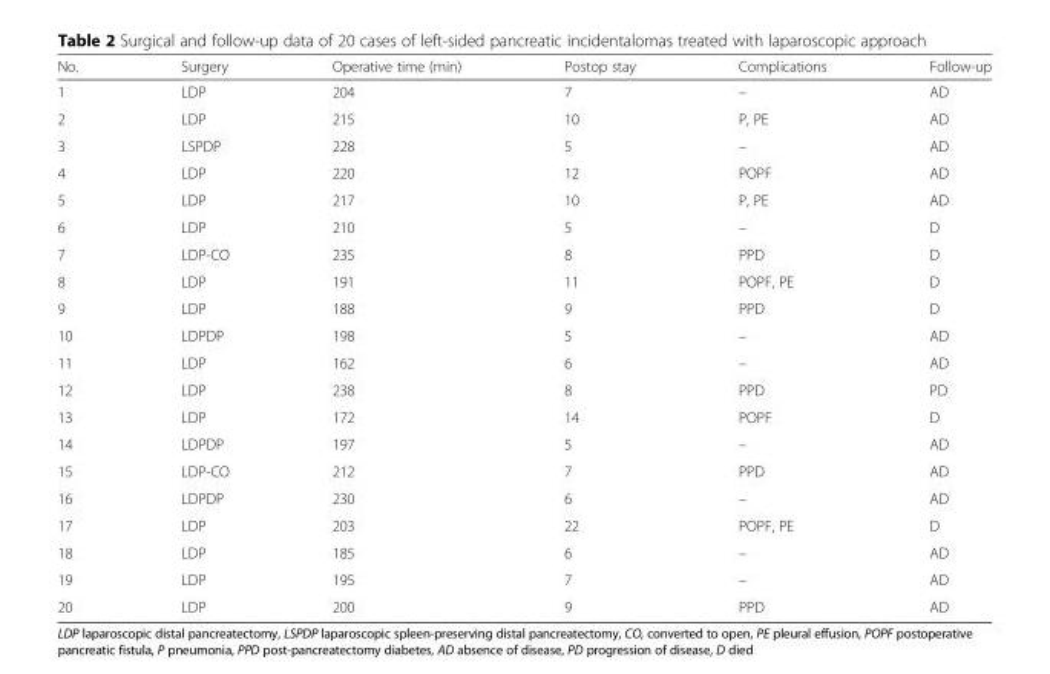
<table><thead><tr><td>No.</td><td>Surgery</td><td>Operative time (min)</td><td>Postop stay</td><td>Complications</td><td>Follow-up</td></tr></thead><tbody><tr><td>1</td><td>LDP</td><td>204</td><td>7</td><td>–</td><td>AD</td></tr><tr><td>2</td><td>LDP</td><td>215</td><td>10</td><td>P, PE</td><td>AD</td></tr><tr><td>3</td><td>LSPDP</td><td>228</td><td>5</td><td>–</td><td>AD</td></tr><tr><td>4</td><td>LDP</td><td>220</td><td>12</td><td>POPF</td><td>AD</td></tr><tr><td>5</td><td>LDP</td><td>217</td><td>10</td><td>P, PE</td><td>AD</td></tr><tr><td>6</td><td>LDP</td><td>210</td><td>5</td><td>–</td><td>D</td></tr><tr><td>7</td><td>LDP-CO</td><td>235</td><td>8</td><td>PPD</td><td>D</td></tr><tr><td>8</td><td>LDP</td><td>191</td><td>11</td><td>POPF, PE</td><td>D</td></tr><tr><td>9</td><td>LDP</td><td>188</td><td>9</td><td>PPD</td><td>D</td></tr><tr><td>10</td><td>LDPDP</td><td>198</td><td>5</td><td>–</td><td>AD</td></tr><tr><td>11</td><td>LDP</td><td>162</td><td>6</td><td>–</td><td>AD</td></tr><tr><td>12</td><td>LDP</td><td>238</td><td>8</td><td>PPD</td><td>PD</td></tr><tr><td>13</td><td>LDP</td><td>172</td><td>14</td><td>POPF</td><td>D</td></tr><tr><td>14</td><td>LDPDP</td><td>197</td><td>5</td><td>–</td><td>AD</td></tr><tr><td>15</td><td>LDP-CO</td><td>212</td><td>7</td><td>PPD</td><td>AD</td></tr><tr><td>16</td><td>LDPDP</td><td>230</td><td>6</td><td>–</td><td>AD</td></tr><tr><td>17</td><td>LDP</td><td>203</td><td>22</td><td>POPF, PE</td><td>D</td></tr><tr><td>18</td><td>LDP</td><td>185</td><td>6</td><td>–</td><td>AD</td></tr><tr><td>19</td><td>LDP</td><td>195</td><td>7</td><td>–</td><td>AD</td></tr><tr><td>20</td><td>LDP</td><td>200</td><td>9</td><td>PPD</td><td>AD</td></tr></tbody></table>